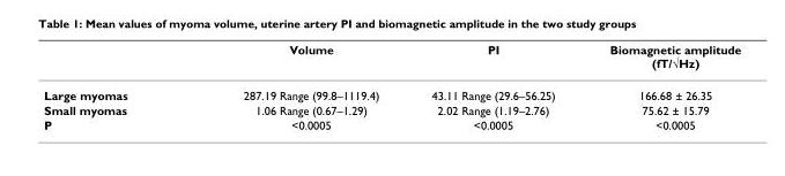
<table><thead><tr><td></td><td>Volume</td><td>PI</td><td>Biomagnetic amplitude (fT/√Hz)</td></tr></thead><tbody><tr><td>Large myomas</td><td>287.19 Range (99.8–1119.4)</td><td>43.11 Range (29.6–56.25)</td><td>166.68 ± 26.35</td></tr><tr><td>Small myomas</td><td>1.06 Range (0.67–1.29)</td><td>2.02 Range (1.19–2.76)</td><td>75.62 ± 15.79</td></tr><tr><td>P</td><td>&lt;0.0005</td><td>&lt;0.0005</td><td>&lt;0.0005</td></tr></tbody></table>